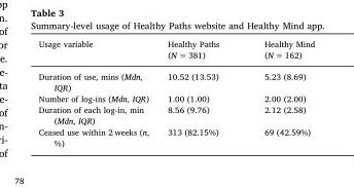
<table><thead><tr><td>Usage variable</td><td>Healthy Paths (N = 381)</td><td>Healthy Mind (N = 162)</td></tr></thead><tbody><tr><td>Duration of use, mins (Mdn, IQR)</td><td>10.52 (13.53)</td><td>5.23 (8.69)</td></tr><tr><td>Number of log-ins (Mdn, IQR)</td><td>1.00 (1.00)</td><td>2.00 (2.00)</td></tr><tr><td>Duration of each log-in, min (Mdn, IQR)</td><td>8.56 (9.76)</td><td>2.12 (2.58)</td></tr><tr><td>Ceased use within 2 weeks (n, %)</td><td>313 (82.15%)</td><td>69 (42.59%)</td></tr></tbody></table>